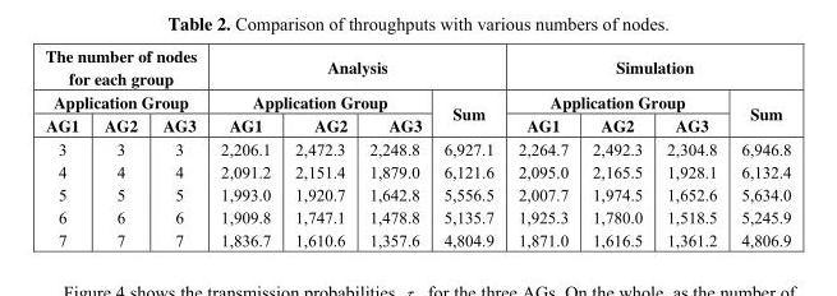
<table><thead><tr><td rowspan="2" colspan="3">The number of nodes for each group Application Group</td><td colspan="4">Analysis</td><td colspan="4">Simulation</td></tr><tr><td colspan="3">Application Group</td><td rowspan="2">Sum</td><td colspan="3">Application Group</td><td rowspan="2">Sum</td></tr><tr><td>AG1</td><td>AG2</td><td>AG3</td><td>AG1</td><td>AG2</td><td>AG3</td><td>AG1</td><td>AG2</td><td>AG3</td></tr></thead><tbody><tr><td>3</td><td>3</td><td>3</td><td>2,206.1</td><td>2,472.3</td><td>2,248.8</td><td>6,927.1</td><td>2,264.7</td><td>2,492.3</td><td>2,304.8</td><td>6,946.8</td></tr><tr><td>4</td><td>4</td><td>4</td><td>2,091.2</td><td>2,151.4</td><td>1,879.0</td><td>6,121.6</td><td>2,095.0</td><td>2,165.5</td><td>1,928.1</td><td>6,132.4</td></tr><tr><td>5</td><td>5</td><td>5</td><td>1,993.0</td><td>1,920.7</td><td>1,642.8</td><td>5,556.5</td><td>2,007.7</td><td>1,974.5</td><td>1,652.6</td><td>5,634.0</td></tr><tr><td>6</td><td>6</td><td>6</td><td>1,909.8</td><td>1,747.1</td><td>1,478.8</td><td>5,135.7</td><td>1,925.3</td><td>1,780.0</td><td>1,518.5</td><td>5,245.9</td></tr><tr><td>7</td><td>7</td><td>7</td><td>1,836.7</td><td>1,610.6</td><td>1,357.6</td><td>4,804.9</td><td>1,871.0</td><td>1,616.5</td><td>1,361.2</td><td>4,806.9</td></tr></tbody></table>